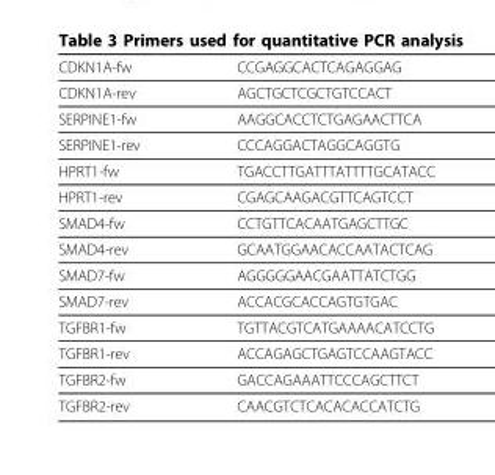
<table><thead><tr><td>CDKN1A-fw</td><td>CCGAGGCACTCAGAGGAG</td></tr></thead><tbody><tr><td>CDKN1A-rev</td><td>AGCTGCTCGCTGTCCACT</td></tr><tr><td>SERPINE1-fw</td><td>AAGGCACCTCTGAGAACTTCA</td></tr><tr><td>SERPINE1-rev</td><td>CCCAGGACTAGGCAGGTG</td></tr><tr><td>HPRT1-fw</td><td>TGACCTTGATTTATTTTGCATACC</td></tr><tr><td>HPRT1-rev</td><td>CGAGCAAGACGTTCAGTCCT</td></tr><tr><td>SMAD4-fw</td><td>CCTGTTCACAATGAGCTTGC</td></tr><tr><td>SMAD4-rev</td><td>GCAATGGAACACCAATACTCAG</td></tr><tr><td>SMAD7-fw</td><td>AGGGGGAACGAATTATCTGG</td></tr><tr><td>SMAD7-rev</td><td>ACCACGCACCAGTGTGAC</td></tr><tr><td>TGFBR1-fw</td><td>TGTTACGTCATGAAAACATCCTG</td></tr><tr><td>TGFBR1-rev</td><td>ACCAGAGCTGAGTCCAAGTACC</td></tr><tr><td>TGFBR2-fw</td><td>GACCAGAAATTCCCAGCTTCT</td></tr><tr><td>TGFBR2-rev</td><td>CAACGTCTCACACACCATCTG</td></tr></tbody></table>